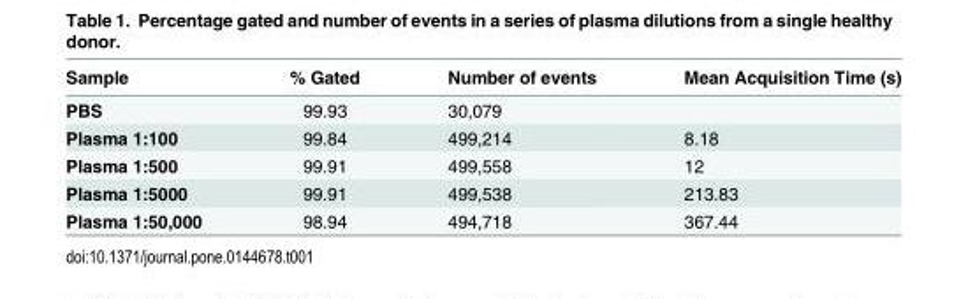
<table><thead><tr><td>Sample</td><td>% Gated</td><td>Number of events</td><td>Mean Acquisition Time (s)</td></tr></thead><tbody><tr><td>PBS</td><td>99.93</td><td>30,079</td><td></td></tr><tr><td>Plasma 1:100</td><td>99.84</td><td>499,214</td><td>8.18</td></tr><tr><td>Plasma 1:500</td><td>99.91</td><td>499,558</td><td>12</td></tr><tr><td>Plasma 1:5000</td><td>99.91</td><td>499,538</td><td>213.83</td></tr><tr><td>Plasma 1:50,000</td><td>98.94</td><td>494,718</td><td>367.44</td></tr></tbody></table>